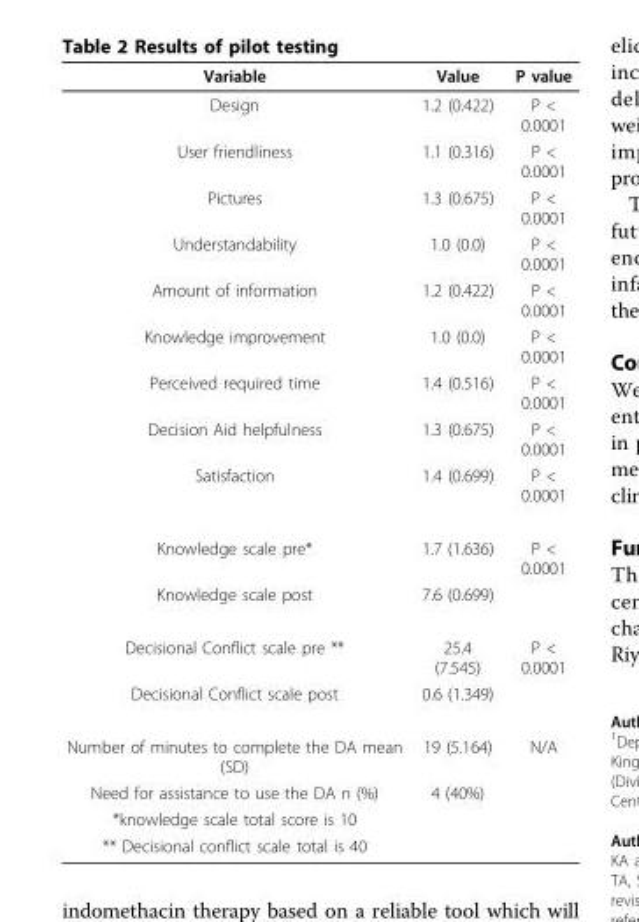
<table><thead><tr><td>Variable</td><td>Value</td><td>P value</td></tr></thead><tbody><tr><td>Design</td><td>1.2 (0.422)</td><td>P &lt; 0.0001</td></tr><tr><td>User friendliness</td><td>1.1 (0.316)</td><td>P &lt; 0.0001</td></tr><tr><td>Pictures</td><td>1.3 (0.675)</td><td>P &lt; 0.0001</td></tr><tr><td>Understandability</td><td>1.0 (0.0)</td><td>P &lt; 0.0001</td></tr><tr><td>Amount of information</td><td>1.2 (0.422)</td><td>P &lt; 0.0001</td></tr><tr><td>Knowledge improvement</td><td>1.0 (0.0)</td><td>P &lt; 0.0001</td></tr><tr><td>Perceived required time</td><td>1.4 (0.516)</td><td>P &lt; 0.0001</td></tr><tr><td>Decision Aid helpfulness</td><td>1.3 (0.675)</td><td>P &lt; 0.0001</td></tr><tr><td>Satisfaction</td><td>1.4 (0.699)</td><td>P &lt; 0.0001</td></tr><tr><td>Knowledge scale pre*</td><td>1.7 (1.636)</td><td>P &lt; 0.0001</td></tr><tr><td>Knowledge scale post</td><td>7.6 (0.699)</td><td></td></tr><tr><td>Decisional Conflict scale pre **</td><td>25.4 (7.545)</td><td>P &lt; 0.0001</td></tr><tr><td>Decisional Conflict scale post</td><td>0.6 (1.349)</td><td></td></tr><tr><td>Number of minutes to complete the DA mean (SD)</td><td>19 (5.164)</td><td>N/A</td></tr><tr><td>Need for assistance to use the DA n (%)</td><td>4 (40%)</td><td></td></tr><tr><td colspan="3">*knowledge scale total score is 10</td></tr><tr><td>** Decisional conflict scale total is 40</td><td></td><td></td></tr></tbody></table>